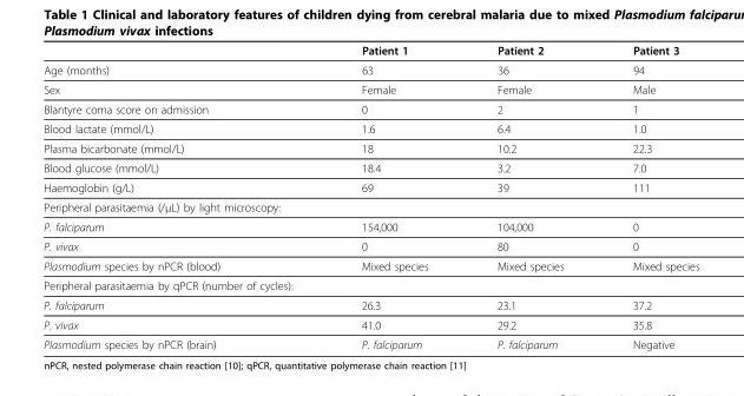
<table><thead><tr><td></td><td>Patient 1</td><td>Patient 2</td><td>Patient 3</td></tr></thead><tbody><tr><td>Age (months)</td><td>63</td><td>36</td><td>94</td></tr><tr><td>Sex</td><td>Female</td><td>Female</td><td>Male</td></tr><tr><td>Blantyre coma score on admission</td><td>0</td><td>2</td><td>1</td></tr><tr><td>Blood lactate (mmol/L)</td><td>1.6</td><td>6.4</td><td>1.0</td></tr><tr><td>Plasma bicarbonate (mmol/L)</td><td>18</td><td>10.2</td><td>22.3</td></tr><tr><td>Blood glucose (mmol/L)</td><td>18.4</td><td>3.2</td><td>7.0</td></tr><tr><td>Haemoglobin (g/L)</td><td>69</td><td>39</td><td>111</td></tr><tr><td colspan="4">Peripheral parasitaemia (/μL) by light microscopy:</td></tr><tr><td>P. falciparum</td><td>154,000</td><td>104,000</td><td>0</td></tr><tr><td>P. vivax</td><td>0</td><td>80</td><td>0</td></tr><tr><td>Plasmodium species by nPCR (blood)</td><td>Mixed species</td><td>Mixed species</td><td>Mixed species</td></tr><tr><td colspan="4">Peripheral parasitaemia by qPCR (number of cycles):</td></tr><tr><td>P. falciparum</td><td>26.3</td><td>23.1</td><td>37.2</td></tr><tr><td>P. vivax</td><td>41.0</td><td>29.2</td><td>35.8</td></tr><tr><td>Plasmodium species by nPCR (brain)</td><td>P. falciparum</td><td>P. falciparum</td><td>Negative</td></tr></tbody></table>